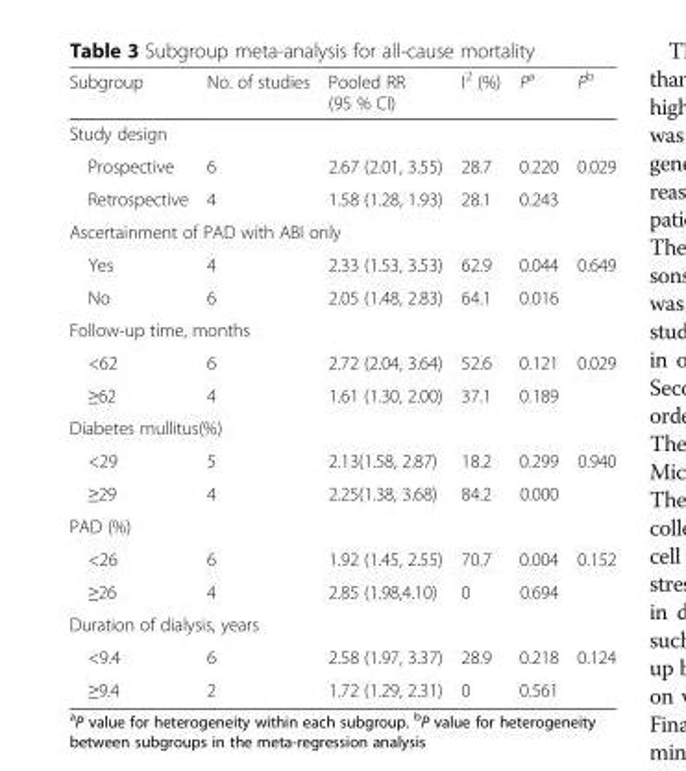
<table><thead><tr><td>Subgroup</td><td>No. of studies</td><td>Pooled RR (95 % CI)</td><td>I<sup>2</sup> (%)</td><td>P<sup>a</sup></td><td>P<sup>b</sup></td></tr></thead><tbody><tr><td colspan="6">Study design</td></tr><tr><td>Prospective</td><td>6</td><td>2.67 (2.01, 3.55)</td><td>28.7</td><td>0.220</td><td>0.029</td></tr><tr><td>Retrospective</td><td>4</td><td>1.58 (1.28, 1.93)</td><td>28.1</td><td>0.243</td><td></td></tr><tr><td colspan="6">Ascertainment of PAD with ABI only</td></tr><tr><td>Yes</td><td>4</td><td>2.33 (1.53, 3.53)</td><td>62.9</td><td>0.044</td><td>0.649</td></tr><tr><td>No</td><td>6</td><td>2.05 (1.48, 2.83)</td><td>64.1</td><td>0.016</td><td></td></tr><tr><td colspan="6">Follow-up time, months</td></tr><tr><td>&lt;62</td><td>6</td><td>2.72 (2.04, 3.64)</td><td>52.6</td><td>0.121</td><td>0.029</td></tr><tr><td>≥62</td><td>4</td><td>1.61 (1.30, 2.00)</td><td>37.1</td><td>0.189</td><td></td></tr><tr><td colspan="6">Diabetes mullitus(%)</td></tr><tr><td>&lt;29</td><td>5</td><td>2.13(1.58, 2.87)</td><td>18.2</td><td>0.299</td><td>0.940</td></tr><tr><td>≥29</td><td>4</td><td>2.25(1.38, 3.68)</td><td>84.2</td><td>0.000</td><td></td></tr><tr><td colspan="6">PAD (%)</td></tr><tr><td>&lt;26</td><td>6</td><td>1.92 (1.45, 2.55)</td><td>70.7</td><td>0.004</td><td>0.152</td></tr><tr><td>≥26</td><td>4</td><td>2.85 (1.98,4.10)</td><td>0</td><td>0.694</td><td></td></tr><tr><td colspan="6">Duration of dialysis, years</td></tr><tr><td>&lt;9.4</td><td>6</td><td>2.58 (1.97, 3.37)</td><td>28.9</td><td>0.218</td><td>0.124</td></tr><tr><td>≥9.4</td><td>2</td><td>1.72 (1.29, 2.31)</td><td>0</td><td>0.561</td><td></td></tr></tbody></table>